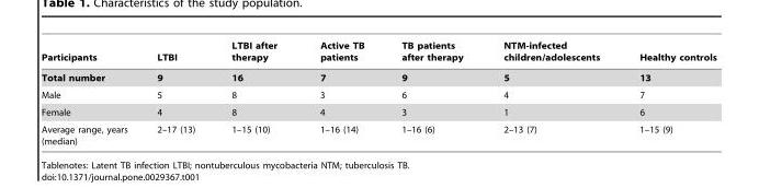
<table><thead><tr><td>Participants</td><td>LTBI</td><td>LTBI after therapy</td><td>Active TB patients</td><td>TB patients after therapy</td><td>NTM-infected children/adolescents</td><td>Healthy controls</td></tr></thead><tbody><tr><td>Total number</td><td>9</td><td>16</td><td>7</td><td>9</td><td>5</td><td>13</td></tr><tr><td>Male</td><td>5</td><td>8</td><td>3</td><td>6</td><td>4</td><td>7</td></tr><tr><td>Female</td><td>4</td><td>8</td><td>4</td><td>3</td><td>1</td><td>6</td></tr><tr><td>Average range, years (median)</td><td>2–17 (13)</td><td>1–15 (10)</td><td>1–16 (14)</td><td>1–16 (6)</td><td>2–13 (7)</td><td>1–15 (9)</td></tr></tbody></table>